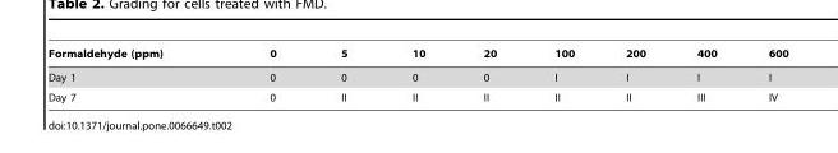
<table><thead><tr><td>Formaldehyde (ppm)</td><td>0</td><td>5</td><td>10</td><td>20</td><td>100</td><td>200</td><td>400</td><td>600</td></tr></thead><tbody><tr><td>Day 1</td><td>0</td><td>0</td><td>0</td><td>0</td><td>I</td><td>I</td><td>I</td><td>I</td></tr><tr><td>Day 7</td><td>0</td><td>II</td><td>II</td><td>II</td><td>II</td><td>II</td><td>III</td><td>IV</td></tr></tbody></table>